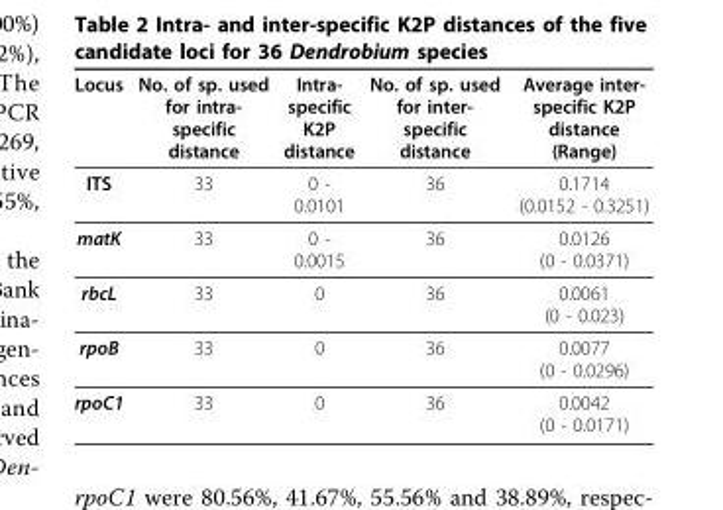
<table><thead><tr><td>Locus</td><td>No. of sp. used for intra- specific distance</td><td>Intra- specific K2P distance</td><td>No. of sp. used for inter- specific distance</td><td>Average inter- specific K2P distance (Range)</td></tr></thead><tbody><tr><td>ITS</td><td>33</td><td>0 - 0.0101</td><td>36</td><td>0.1714 (0.0152 - 0.3251)</td></tr><tr><td>matK</td><td>33</td><td>0 - 0.0015</td><td>36</td><td>0.0126 (0 - 0.0371)</td></tr><tr><td>rbcL</td><td>33</td><td>0</td><td>36</td><td>0.0061 (0 - 0.023)</td></tr><tr><td>rpoB</td><td>33</td><td>0</td><td>36</td><td>0.0077 (0 - 0.0296)</td></tr><tr><td>rpoC1</td><td>33</td><td>0</td><td>36</td><td>0.0042 (0 - 0.0171)</td></tr></tbody></table>